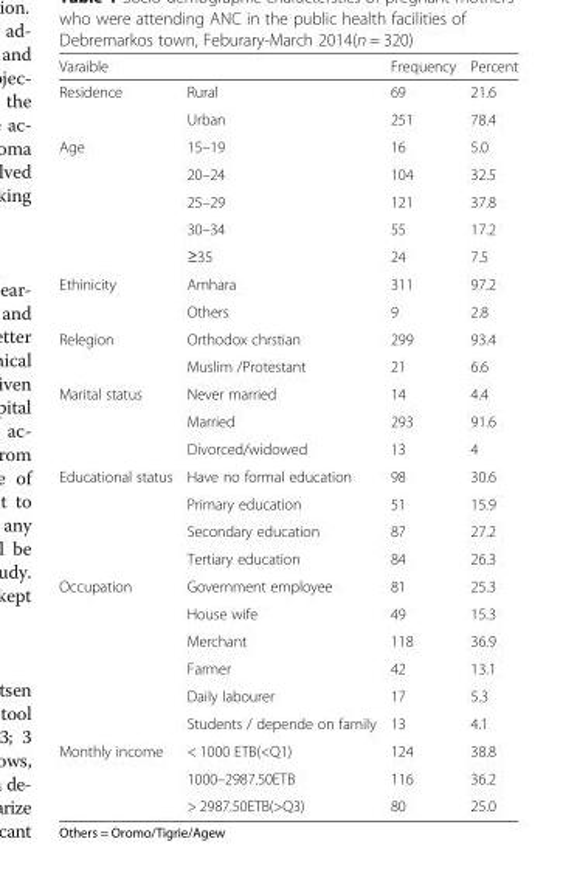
<table><thead><tr><td>Varaible</td><td></td><td>Frequency</td><td>Percent</td></tr></thead><tbody><tr><td rowspan="2">Residence</td><td>Rural</td><td>69</td><td>21.6</td></tr><tr><td>Urban</td><td>251</td><td>78.4</td></tr><tr><td rowspan="5">Age</td><td>15–19</td><td>16</td><td>5.0</td></tr><tr><td>20–24</td><td>104</td><td>32.5</td></tr><tr><td>25–29</td><td>121</td><td>37.8</td></tr><tr><td>30–34</td><td>55</td><td>17.2</td></tr><tr><td>≥35</td><td>24</td><td>7.5</td></tr><tr><td rowspan="2">Ethinicity</td><td>Amhara</td><td>311</td><td>97.2</td></tr><tr><td>Others</td><td>9</td><td>2.8</td></tr><tr><td rowspan="2">Relegion</td><td>Orthodox chrstian</td><td>299</td><td>93.4</td></tr><tr><td>Muslim /Protestant</td><td>21</td><td>6.6</td></tr><tr><td rowspan="3">Marital status</td><td>Never married</td><td>14</td><td>4.4</td></tr><tr><td>Married</td><td>293</td><td>91.6</td></tr><tr><td>Divorced/widowed</td><td>13</td><td>4</td></tr><tr><td rowspan="4">Educational status</td><td>Have no formal education</td><td>98</td><td>30.6</td></tr><tr><td>Primary education</td><td>51</td><td>15.9</td></tr><tr><td>Secondary education</td><td>87</td><td>27.2</td></tr><tr><td>Tertiary education</td><td>84</td><td>26.3</td></tr><tr><td rowspan="6">Occupation</td><td>Government employee</td><td>81</td><td>25.3</td></tr><tr><td>House wife</td><td>49</td><td>15.3</td></tr><tr><td>Merchant</td><td>118</td><td>36.9</td></tr><tr><td>Farmer</td><td>42</td><td>13.1</td></tr><tr><td>Daily labourer</td><td>17</td><td>5.3</td></tr><tr><td>Students / depende on family</td><td>13</td><td>4.1</td></tr><tr><td rowspan="3">Monthly income</td><td>&lt; 1000 ETB(&lt;Q1)</td><td>124</td><td>38.8</td></tr><tr><td>1000–2987.50ETB</td><td>116</td><td>36.2</td></tr><tr><td>&gt; 2987.50ETB(&gt;Q3)</td><td>80</td><td>25.0</td></tr></tbody></table>